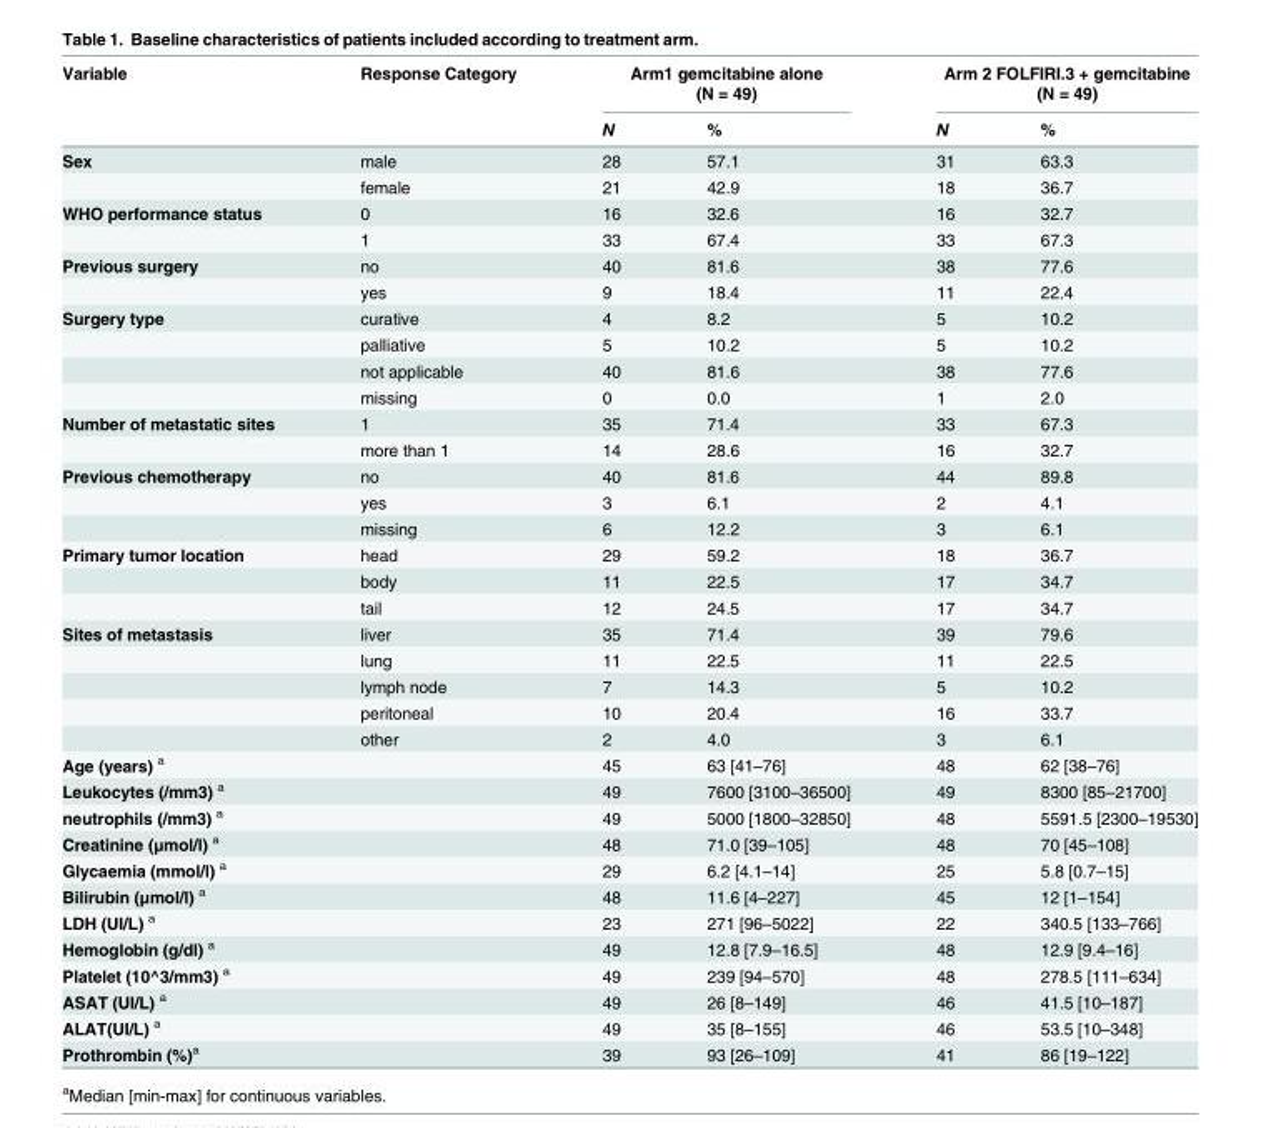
<table><thead><tr><td rowspan="2">Variable</td><td rowspan="2">Response Category</td><td colspan="2">Arm1 gemcitabine alone (N = 49)</td><td colspan="2">Arm 2 FOLFIRI.3 + gemcitabine (N = 49)</td></tr><tr><td>N</td><td>%</td><td>N</td><td>%</td></tr></thead><tbody><tr><td rowspan="2">Sex</td><td>male</td><td>28</td><td>57.1</td><td>31</td><td>63.3</td></tr><tr><td>female</td><td>21</td><td>42.9</td><td>18</td><td>36.7</td></tr><tr><td rowspan="2">WHO performance status</td><td>0</td><td>16</td><td>32.6</td><td>16</td><td>32.7</td></tr><tr><td>1</td><td>33</td><td>67.4</td><td>33</td><td>67.3</td></tr><tr><td rowspan="2">Previous surgery</td><td>no</td><td>40</td><td>81.6</td><td>38</td><td>77.6</td></tr><tr><td>yes</td><td>9</td><td>18.4</td><td>11</td><td>22.4</td></tr><tr><td rowspan="4">Surgery type</td><td>curative</td><td>4</td><td>8.2</td><td>5</td><td>10.2</td></tr><tr><td>palliative</td><td>5</td><td>10.2</td><td>5</td><td>10.2</td></tr><tr><td>not applicable</td><td>40</td><td>81.6</td><td>38</td><td>77.6</td></tr><tr><td>missing</td><td>0</td><td>0.0</td><td>1</td><td>2.0</td></tr><tr><td rowspan="2">Number of metastatic sites</td><td>1</td><td>35</td><td>71.4</td><td>33</td><td>67.3</td></tr><tr><td>more than 1</td><td>14</td><td>28.6</td><td>16</td><td>32.7</td></tr><tr><td rowspan="3">Previous chemotherapy</td><td>no</td><td>40</td><td>81.6</td><td>44</td><td>89.8</td></tr><tr><td>yes</td><td>3</td><td>6.1</td><td>2</td><td>4.1</td></tr><tr><td>missing</td><td>6</td><td>12.2</td><td>3</td><td>6.1</td></tr><tr><td rowspan="3">Primary tumor location</td><td>head</td><td>29</td><td>59.2</td><td>18</td><td>36.7</td></tr><tr><td>body</td><td>11</td><td>22.5</td><td>17</td><td>34.7</td></tr><tr><td>tail</td><td>12</td><td>24.5</td><td>17</td><td>34.7</td></tr><tr><td rowspan="5">Sites of metastasis</td><td>liver</td><td>35</td><td>71.4</td><td>39</td><td>79.6</td></tr><tr><td>lung</td><td>11</td><td>22.5</td><td>11</td><td>22.5</td></tr><tr><td>lymph node</td><td>7</td><td>14.3</td><td>5</td><td>10.2</td></tr><tr><td>peritoneal</td><td>10</td><td>20.4</td><td>16</td><td>33.7</td></tr><tr><td>other</td><td>2</td><td>4.0</td><td>3</td><td>6.1</td></tr><tr><td>Age (years) <sup>a</sup></td><td></td><td>45</td><td>63 [41–76]</td><td>48</td><td>62 [38–76]</td></tr><tr><td>Leukocytes (/mm3) <sup>a</sup></td><td></td><td>49</td><td>7600 [3100–36500]</td><td>49</td><td>8300 [85–21700]</td></tr><tr><td>neutrophils (/mm3) <sup>a</sup></td><td></td><td>49</td><td>5000 [1800–32850]</td><td>48</td><td>5591.5 [2300–19530]</td></tr><tr><td>Creatinine (μmol/l) <sup>a</sup></td><td></td><td>48</td><td>71.0 [39–105]</td><td>48</td><td>70 [45–108]</td></tr><tr><td>Glycaemia (mmol/l) <sup>a</sup></td><td></td><td>29</td><td>6.2 [4.1–14]</td><td>25</td><td>5.8 [0.7–15]</td></tr><tr><td>Bilirubin (μmol/l) <sup>a</sup></td><td></td><td>48</td><td>11.6 [4–227]</td><td>45</td><td>12 [1–154]</td></tr><tr><td>LDH (UI/L) <sup>a</sup></td><td></td><td>23</td><td>271 [96–5022]</td><td>22</td><td>340.5 [133–766]</td></tr><tr><td>Hemoglobin (g/dl) <sup>a</sup></td><td></td><td>49</td><td>12.8 [7.9–16.5]</td><td>48</td><td>12.9 [9.4–16]</td></tr><tr><td>Platelet (10^3/mm3) <sup>a</sup></td><td></td><td>49</td><td>239 [94–570]</td><td>48</td><td>278.5 [111–634]</td></tr><tr><td>ASAT (UI/L) <sup>a</sup></td><td></td><td>49</td><td>26 [8–149]</td><td>46</td><td>41.5 [10–187]</td></tr><tr><td>ALAT(UI/L) <sup>a</sup></td><td></td><td>49</td><td>35 [8–155]</td><td>46</td><td>53.5 [10–348]</td></tr><tr><td>Prothrombin (%)<sup>a</sup></td><td></td><td>39</td><td>93 [26–109]</td><td>41</td><td>86 [19–122]</td></tr></tbody></table>